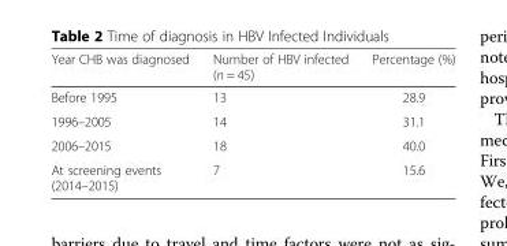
<table><thead><tr><td>Year CHB was diagnosed</td><td>Number of HBV infected (n = 45)</td><td>Percentage (%)</td></tr></thead><tbody><tr><td>Before 1995</td><td>13</td><td>28.9</td></tr><tr><td>1996–2005</td><td>14</td><td>31.1</td></tr><tr><td>2006–2015</td><td>18</td><td>40.0</td></tr><tr><td>At screening events (2014–2015)</td><td>7</td><td>15.6</td></tr></tbody></table>